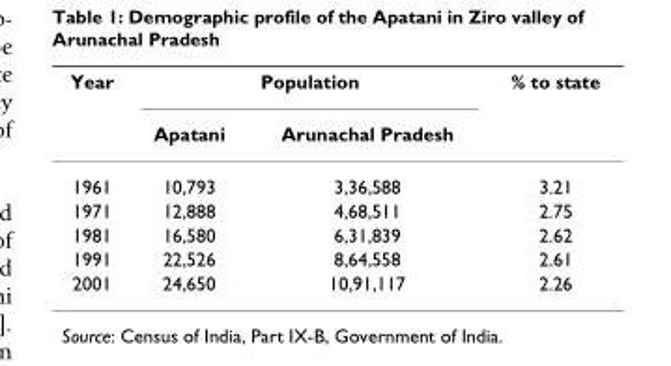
<table><thead><tr><td rowspan="2">Year</td><td colspan="2">Population</td><td rowspan="2">% to state</td></tr><tr><td>Apatani</td><td>Arunachal Pradesh</td></tr></thead><tbody><tr><td>1961</td><td>10,793</td><td>3,36,588</td><td>3.21</td></tr><tr><td>1971</td><td>12,888</td><td>4,68,511</td><td>2.75</td></tr><tr><td>1981</td><td>16,580</td><td>6,31,839</td><td>2.62</td></tr><tr><td>1991</td><td>22,526</td><td>8,64,558</td><td>2.61</td></tr><tr><td>2001</td><td>24,650</td><td>10,91,117</td><td>2.26</td></tr></tbody></table>